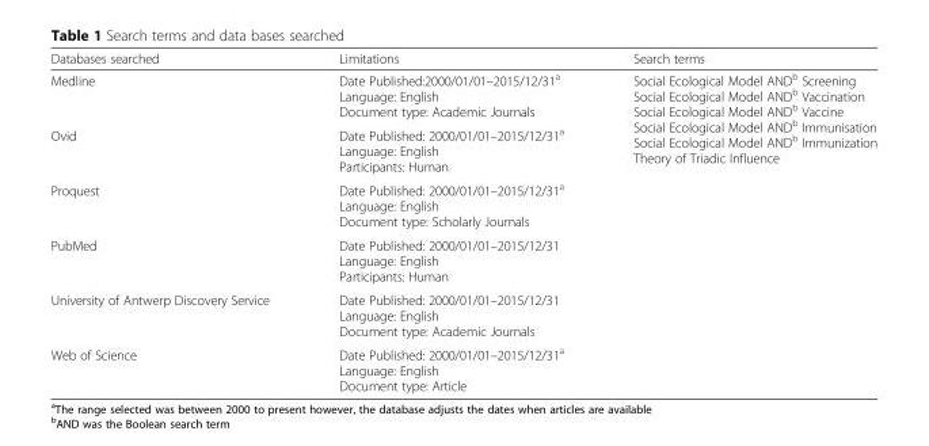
<table><thead><tr><td>Databases searched</td><td>Limitations</td><td>Search terms</td></tr></thead><tbody><tr><td>Medline</td><td>Date Published:2000/01/01–2015/12/31<sup>a</sup> Language: English Document type: Academic Journals</td><td rowspan="6">Social Ecological Model AND<sup>b</sup> Screening Social Ecological Model AND<sup>b</sup> Vaccination Social Ecological Model AND<sup>b</sup> Vaccine Social Ecological Model AND<sup>b</sup> Immunisation Social Ecological Model AND<sup>b</sup> Immunization Theory of Triadic Influence</td></tr><tr><td>Ovid</td><td>Date Published: 2000/01/01–2015/12/31<sup>a</sup> Language: English Participants: Human</td></tr><tr><td>Proquest</td><td>Date Published: 2000/01/01–2015/12/31<sup>a</sup> Language: English Document type: Scholarly Journals</td></tr><tr><td>PubMed</td><td>Date Published: 2000/01/01–2015/12/31 Language: English Participants: Human</td></tr><tr><td>University of Antwerp Discovery Service</td><td>Date Published: 2000/01/01–2015/12/31 Language: English Document type: Academic Journals</td></tr><tr><td>Web of Science</td><td>Date Published: 2000/01/01–2015/12/31<sup>a</sup> Language: English Document type: Article</td></tr></tbody></table>